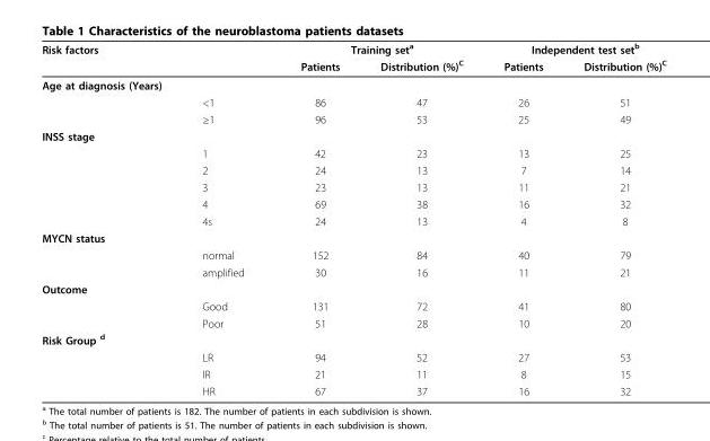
<table><tbody><tr><td rowspan="2">Risk factors</td><td></td><td colspan="2">Training set<sup>a</sup></td><td colspan="2">Independent test set<sup>b</sup></td></tr><tr><td></td><td>Patients</td><td>Distribution (%)<sup>C</sup></td><td>Patients</td><td>Distribution (%)<sup>C</sup></td></tr><tr><td colspan="6">Age at diagnosis (Years)</td></tr><tr><td></td><td>&lt;1</td><td>86</td><td>47</td><td>26</td><td>51</td></tr><tr><td></td><td>≥1</td><td>96</td><td>53</td><td>25</td><td>49</td></tr><tr><td colspan="6">INSS stage</td></tr><tr><td></td><td>1</td><td>42</td><td>23</td><td>13</td><td>25</td></tr><tr><td></td><td>2</td><td>24</td><td>13</td><td>7</td><td>14</td></tr><tr><td></td><td>3</td><td>23</td><td>13</td><td>11</td><td>21</td></tr><tr><td></td><td>4</td><td>69</td><td>38</td><td>16</td><td>32</td></tr><tr><td></td><td>4s</td><td>24</td><td>13</td><td>4</td><td>8</td></tr><tr><td colspan="6">MYCN status</td></tr><tr><td></td><td>normal</td><td>152</td><td>84</td><td>40</td><td>79</td></tr><tr><td></td><td>amplified</td><td>30</td><td>16</td><td>11</td><td>21</td></tr><tr><td colspan="6">Outcome</td></tr><tr><td></td><td>Good</td><td>131</td><td>72</td><td>41</td><td>80</td></tr><tr><td></td><td>Poor</td><td>51</td><td>28</td><td>10</td><td>20</td></tr><tr><td colspan="6">Risk Group <sup>d</sup></td></tr><tr><td></td><td>LR</td><td>94</td><td>52</td><td>27</td><td>53</td></tr><tr><td></td><td>IR</td><td>21</td><td>11</td><td>8</td><td>15</td></tr><tr><td></td><td>HR</td><td>67</td><td>37</td><td>16</td><td>32</td></tr></tbody></table>